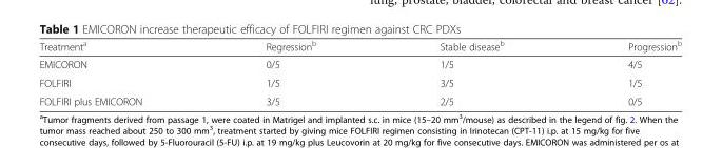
<table><thead><tr><td>Treatment<sup>a</sup></td><td>Regression<sup>b</sup></td><td>Stable disease<sup>b</sup></td><td>Progression<sup>b</sup></td></tr></thead><tbody><tr><td>EMICORON</td><td>0/5</td><td>1/5</td><td>4/5</td></tr><tr><td>FOLFIRI</td><td>1/5</td><td>3/5</td><td>1/5</td></tr><tr><td>FOLFIRI plus EMICORON</td><td>3/5</td><td>2/5</td><td>0/5</td></tr></tbody></table>